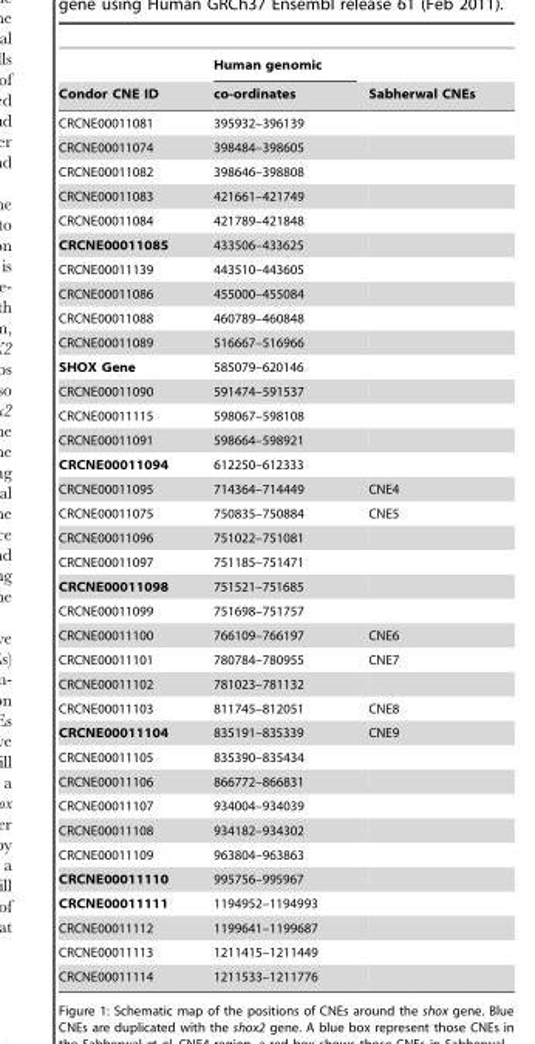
<table><thead><tr><td rowspan="2">Condor CNE ID</td><td rowspan="2">Human genomic co-ordinates</td><td rowspan="2">Sabherwal CNEs</td></tr><tr></tr></thead><tbody><tr><td>CRCNE00011081</td><td>395932–396139</td><td></td></tr><tr><td>CRCNE00011074</td><td>398484–398605</td><td></td></tr><tr><td>CRCNE00011082</td><td>398646–398808</td><td></td></tr><tr><td>CRCNE00011083</td><td>421661–421749</td><td></td></tr><tr><td>CRCNE00011084</td><td>421789–421848</td><td></td></tr><tr><td>CRCNE00011085</td><td>433506–433625</td><td></td></tr><tr><td>CRCNE00011139</td><td>443510–443605</td><td></td></tr><tr><td>CRCNE00011086</td><td>455000–455084</td><td></td></tr><tr><td>CRCNE00011088</td><td>460789–460848</td><td></td></tr><tr><td>CRCNE00011089</td><td>516667–516966</td><td></td></tr><tr><td>SHOX Gene</td><td>585079–620146</td><td></td></tr><tr><td>CRCNE00011090</td><td>591474–591537</td><td></td></tr><tr><td>CRCNE00011115</td><td>598067–598108</td><td></td></tr><tr><td>CRCNE00011091</td><td>598664–598921</td><td></td></tr><tr><td>CRCNE00011094</td><td>612250–612333</td><td></td></tr><tr><td>CRCNE00011095</td><td>714364–714449</td><td>CNE4</td></tr><tr><td>CRCNE00011075</td><td>750835–750884</td><td>CNE5</td></tr><tr><td>CRCNE00011096</td><td>751022–751081</td><td></td></tr><tr><td>CRCNE00011097</td><td>751185–751471</td><td></td></tr><tr><td>CRCNE00011098</td><td>751521–751685</td><td></td></tr><tr><td>CRCNE00011099</td><td>751698–751757</td><td></td></tr><tr><td>CRCNE00011100</td><td>766109–766197</td><td>CNE6</td></tr><tr><td>CRCNE00011101</td><td>780784–780955</td><td>CNE7</td></tr><tr><td>CRCNE00011102</td><td>781023–781132</td><td></td></tr><tr><td>CRCNE00011103</td><td>811745–812051</td><td>CNE8</td></tr><tr><td>CRCNE00011104</td><td>835191–835339</td><td>CNE9</td></tr><tr><td>CRCNE00011105</td><td>835390–835434</td><td></td></tr><tr><td>CRCNE00011106</td><td>866772–866831</td><td></td></tr><tr><td>CRCNE00011107</td><td>934004–934039</td><td></td></tr><tr><td>CRCNE00011108</td><td>934182–934302</td><td></td></tr><tr><td>CRCNE00011109</td><td>963804–963863</td><td></td></tr><tr><td>CRCNE00011110</td><td>995756–995967</td><td></td></tr><tr><td>CRCNE00011111</td><td>1194952–1194993</td><td></td></tr><tr><td>CRCNE00011112</td><td>1199641–1199687</td><td></td></tr><tr><td>CRCNE00011113</td><td>1211415–1211449</td><td></td></tr><tr><td>CRCNE00011114</td><td>1211533–1211776</td><td></td></tr></tbody></table>